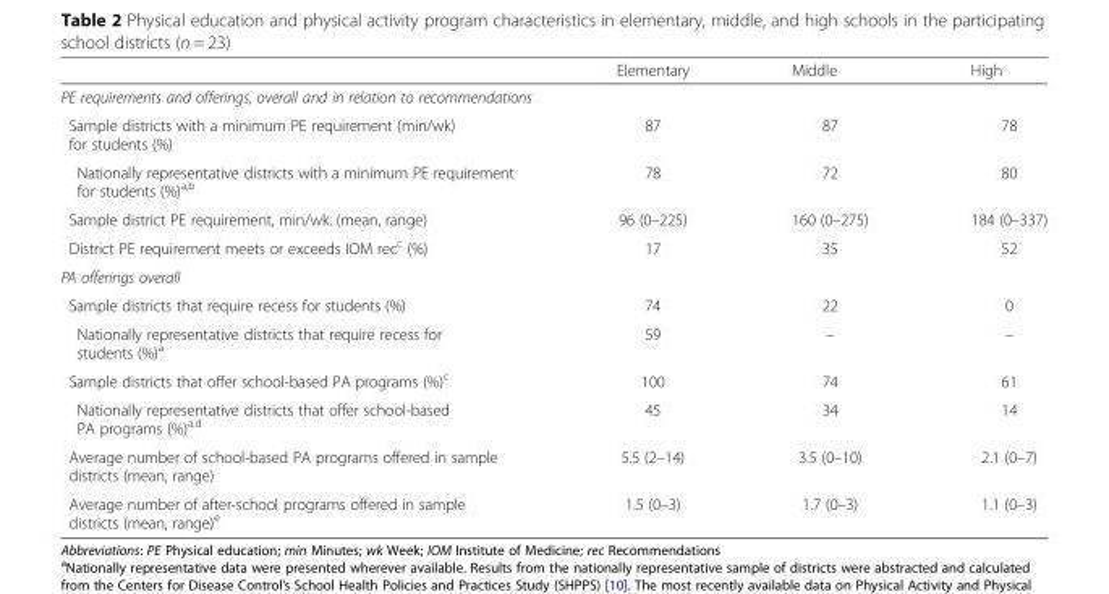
<table><thead><tr><td></td><td>Elementary</td><td>Middle</td><td>High</td></tr></thead><tbody><tr><td colspan="4">PE requirements and offerings, overall and in relation to recommendations</td></tr><tr><td>Sample districts with a minimum PE requirement (min/wk) for students (%)</td><td>87</td><td>87</td><td>78</td></tr><tr><td>Nationally representative districts with a minimum PE requirement for students (%)<sup>a,b</sup></td><td>78</td><td>72</td><td>80</td></tr><tr><td>Sample district PE requirement, min/wk. (mean, range)</td><td>96 (0–225)</td><td>160 (0–275)</td><td>184 (0–337)</td></tr><tr><td>District PE requirement meets or exceeds IOM rec<sup>c</sup> (%)</td><td>17</td><td>35</td><td>52</td></tr><tr><td colspan="4">PA offerings overall</td></tr><tr><td>Sample districts that require recess for students (%)</td><td>74</td><td>22</td><td>0</td></tr><tr><td>Nationally representative districts that require recess for students (%)<sup>a</sup></td><td>59</td><td>–</td><td>–</td></tr><tr><td>Sample districts that offer school-based PA programs (%)<sup>c</sup></td><td>100</td><td>74</td><td>61</td></tr><tr><td>Nationally representative districts that offer school-based PA programs (%)<sup>a,d</sup></td><td>45</td><td>34</td><td>14</td></tr><tr><td>Average number of school-based PA programs offered in sample districts (mean, range)</td><td>5.5 (2–14)</td><td>3.5 (0–10)</td><td>2.1 (0–7)</td></tr><tr><td>Average number of after-school programs offered in sample districts (mean, range)<sup>e</sup></td><td>1.5 (0–3)</td><td>1.7 (0–3)</td><td>1.1 (0–3)</td></tr></tbody></table>